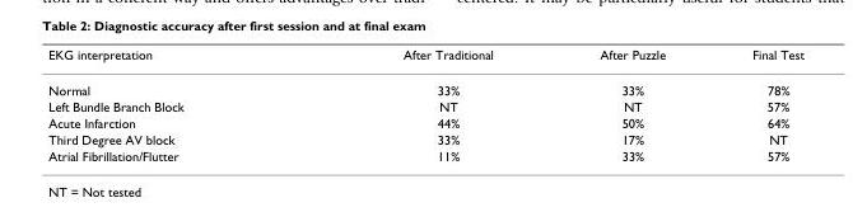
<table><thead><tr><td>EKG interpretation</td><td>After Traditional</td><td>After Puzzle</td><td>Final Test</td></tr></thead><tbody><tr><td>Normal</td><td>33%</td><td>33%</td><td>78%</td></tr><tr><td>Left Bundle Branch Block</td><td>NT</td><td>NT</td><td>57%</td></tr><tr><td>Acute Infarction</td><td>44%</td><td>50%</td><td>64%</td></tr><tr><td>Third Degree AV block</td><td>33%</td><td>17%</td><td>NT</td></tr><tr><td>Atrial Fibrillation/Flutter</td><td>11%</td><td>33%</td><td>57%</td></tr></tbody></table>